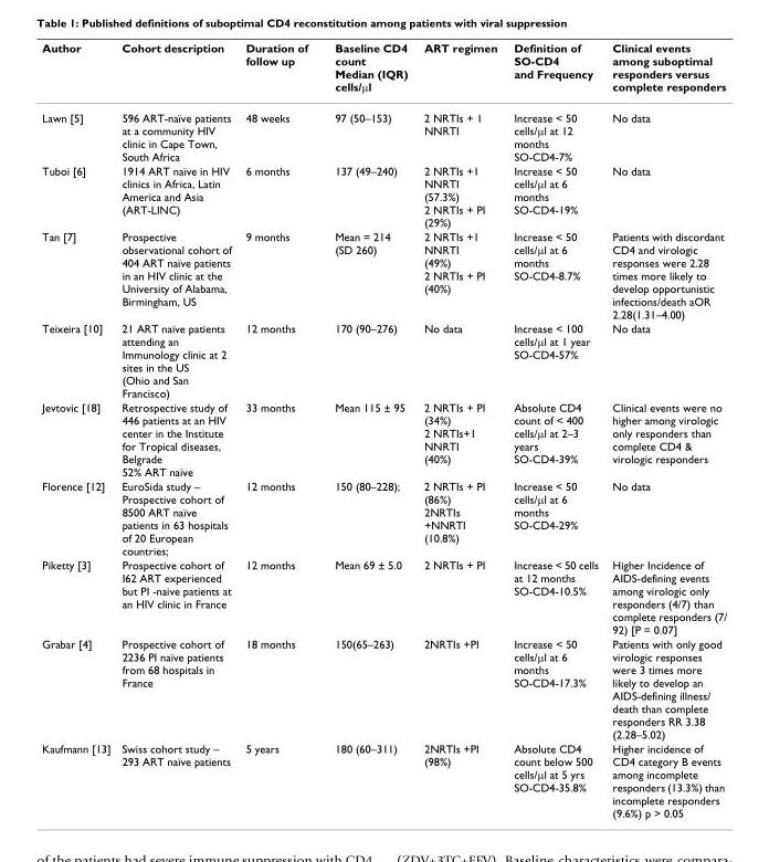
<table><thead><tr><td>Author</td><td>Cohort description</td><td>Duration of follow up</td><td>Baseline CD4 count Median (IQR) cells/μl</td><td>ART regimen</td><td>Definition of SO-CD4 and Frequency</td><td>Clinical events among suboptimal responders versus complete responders</td></tr></thead><tbody><tr><td>Lawn [5]</td><td>596 ART-naïve patients at a community HIV clinic in Cape Town, South Africa</td><td>48 weeks</td><td>97 (50–153)</td><td>2 NRTIs + 1 NNRTI</td><td>Increase &lt; 50 cells/μl at 12 months SO-CD4-7%</td><td>No data</td></tr><tr><td>Tuboi [6]</td><td>1914 ART naïve in HIV clinics in Africa, Latin America and Asia (ART-LINC)</td><td>6 months</td><td>137 (49–240)</td><td>2 NRTIs +1 NNRTI (57.3%) 2 NRTIs + PI (29%)</td><td>Increase &lt; 50 cells/μl at 6 months SO-CD4-19%</td><td>No data</td></tr><tr><td>Tan [7]</td><td>Prospective observational cohort of 404 ART naïve patients in an HIV clinic at the University of Alabama, Birmingham, US</td><td>9 months</td><td>Mean = 214 (SD 260)</td><td>2 NRTIs +1 NNRTI (49%) 2 NRTIs + PI (40%)</td><td>Increase &lt; 50 cells/μl at 6 months SO-CD4-8.7%</td><td>Patients with discordant CD4 and virologic responses were 2.28 times more likely to develop opportunistic infections/death aOR 2.28(1.31–4.00)</td></tr><tr><td>Teixeira [10]</td><td>21 ART naïve patients attending an Immunology clinic at 2 sites in the US (Ohio and San Francisco)</td><td>12 months</td><td>170 (90–276)</td><td>No data</td><td>Increase &lt; 100 cells/μl at 1 year SO-CD4-57%</td><td>No data</td></tr><tr><td>Jevtovic [18]</td><td>Retrospective study of 446 patients at an HIV center in the Institute for Tropical diseases, Belgrade 52% ART naïve</td><td>33 months</td><td>Mean 115 ± 95</td><td>2 NRTIs + PI (34%) 2 NRTIs+1 NNRTI (40%)</td><td>Absolute CD4 count of &lt; 400 cells/μl at 2–3 years SO-CD4-39%</td><td>Clinical events were no higher among virologic only responders than complete CD4 &amp; virologic responders</td></tr><tr><td>Florence [12]</td><td>EuroSida study – Prospective cohort of 8500 ART naïve patients in 63 hospitals of 20 European countries;</td><td>12 months</td><td>150 (80–228);</td><td>2 NRTIs + PI (86%) 2NRTIs +NNRTI (10.8%)</td><td>Increase &lt; 50 cells/μl at 6 months SO-CD4-29%</td><td>No data</td></tr><tr><td>Piketty [3]</td><td>Prospective cohort of I62 ART experienced but PI -naive patients at an HIV clinic in France</td><td>12 months</td><td>Mean 69 ± 5.0</td><td>2 NRTIs + PI</td><td>Increase &lt; 50 cells at 12 months SO-CD4-10.5%</td><td>Higher Incidence of AIDS-defining events among virologic only responders (4/7) than complete responders (7/ 92) [P = 0.07]</td></tr><tr><td>Grabar [4]</td><td>Prospective cohort of 2236 PI naïve patients from 68 hospitals in France</td><td>18 months</td><td>150(65–263)</td><td>2NRTIs +PI</td><td>Increase &lt; 50 cells/μl at 6 months SO-CD4-17.3%</td><td>Patients with only good virologic responses were 3 times more likely to develop an AIDS-defining illness/ death than complete responders RR 3.38 (2.28–5.02)</td></tr><tr><td>Kaufmann [13]</td><td>Swiss cohort study – 293 ART naïve patients</td><td>5 years</td><td>180 (60–311)</td><td>2NRTIs +PI (98%)</td><td>Absolute CD4 count below 500 cells/μl at 5 yrs SO-CD4-35.8%</td><td>Higher incidence of CD4 category B events among incomplete responders (13.3%) than incomplete responders (9.6%) p &gt; 0.05</td></tr></tbody></table>